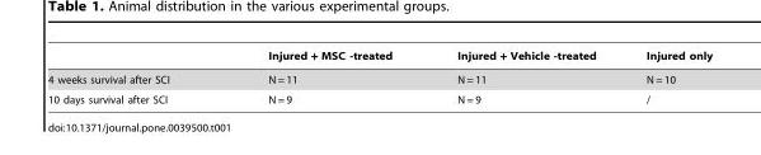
<table><thead><tr><td></td><td>Injured + MSC -treated</td><td>Injured + Vehicle -treated</td><td>Injured only</td></tr></thead><tbody><tr><td>4 weeks survival after SCI</td><td>N = 11</td><td>N = 11</td><td>N = 10</td></tr><tr><td>10 days survival after SCI</td><td>N = 9</td><td>N = 9</td><td>/</td></tr></tbody></table>